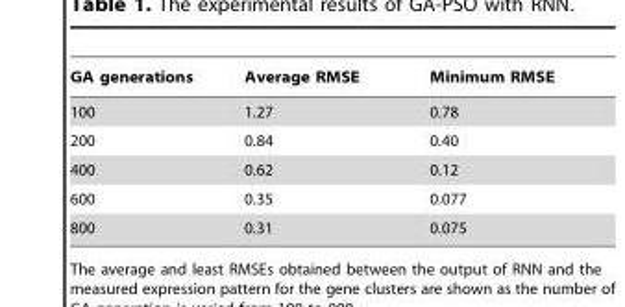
<table><thead><tr><td>GA generations</td><td>Average RMSE</td><td>Minimum RMSE</td></tr></thead><tbody><tr><td>100</td><td>1.27</td><td>0.78</td></tr><tr><td>200</td><td>0.84</td><td>0.40</td></tr><tr><td>400</td><td>0.62</td><td>0.12</td></tr><tr><td>600</td><td>0.35</td><td>0.077</td></tr><tr><td>800</td><td>0.31</td><td>0.075</td></tr></tbody></table>